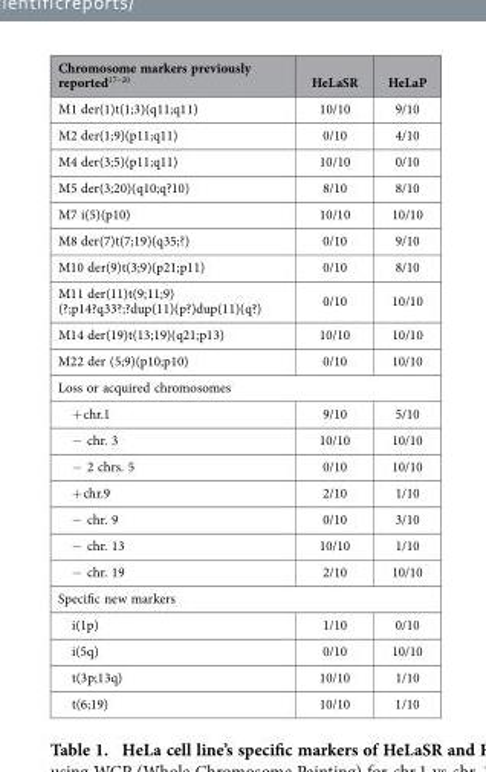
<table><thead><tr><td>Chromosome markers previously reported17–20</td><td>HeLaSR</td><td>HeLaP</td></tr></thead><tbody><tr><td>M1 der(1)t(1;3)(q11;q11)</td><td>10/10</td><td>9/10</td></tr><tr><td>M2 der(1;9)(p11;q11)</td><td>0/10</td><td>4/10</td></tr><tr><td>M4 der(3;5)(p11;q11)</td><td>10/10</td><td>0/10</td></tr><tr><td>M5 der(3;20)(q10;q?10)</td><td>8/10</td><td>8/10</td></tr><tr><td>M7 i(5)(p10)</td><td>10/10</td><td>10/10</td></tr><tr><td>M8 der(7)t(7;19)(q35;?)</td><td>0/10</td><td>9/10</td></tr><tr><td>M10 der(9)t(3;9)(p21;p11)</td><td>0/10</td><td>8/10</td></tr><tr><td>M11 der(11)t(9;11;9) (?;p14?q33?;?dup(11)(p?)dup(11)(q?)</td><td>0/10</td><td>10/10</td></tr><tr><td>M14 der(19)t(13;19)(q21;p13)</td><td>10/10</td><td>10/10</td></tr><tr><td>M22 der (5;9)(p10;p10)</td><td>0/10</td><td>10/10</td></tr><tr><td colspan="3">Loss or acquired chromosomes</td></tr><tr><td>+ chr.1</td><td>9/10</td><td>5/10</td></tr><tr><td>− chr. 3</td><td>10/10</td><td>10/10</td></tr><tr><td>− 2 chrs. 5</td><td>0/10</td><td>10/10</td></tr><tr><td>+ chr.9</td><td>2/10</td><td>1/10</td></tr><tr><td>− chr. 9</td><td>0/10</td><td>3/10</td></tr><tr><td>− chr. 13</td><td>10/10</td><td>1/10</td></tr><tr><td>− chr. 19</td><td>2/10</td><td>10/10</td></tr><tr><td colspan="3">Specific new markers</td></tr><tr><td>i(1p)</td><td>1/10</td><td>0/10</td></tr><tr><td>i(5q)</td><td>0/10</td><td>10/10</td></tr><tr><td>t(3p;13q)</td><td>10/10</td><td>1/10</td></tr><tr><td>t(6;19)</td><td>10/10</td><td>1/10</td></tr></tbody></table>